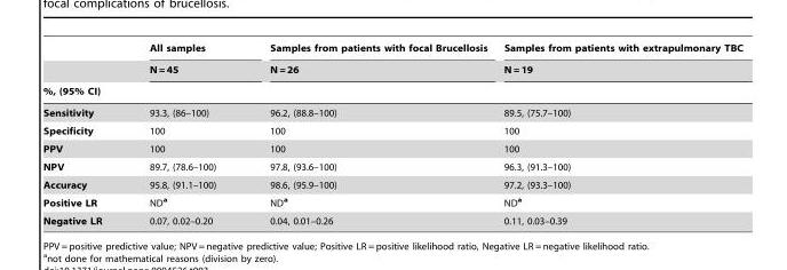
<table><thead><tr><td rowspan="2"></td><td rowspan="2">All samples N = 45</td><td rowspan="2">Samples from patients with focal Brucellosis N = 26</td><td rowspan="2">Samples from patients with extrapulmonary TBC N = 19</td></tr><tr></tr><tr><td colspan="4">%, (95% CI)</td></tr></thead><tbody><tr><td>Sensitivity</td><td>93.3, (86–100)</td><td>96.2, (88.8–100)</td><td>89.5, (75.7–100)</td></tr><tr><td>Specificity</td><td>100</td><td>100</td><td>100</td></tr><tr><td>PPV</td><td>100</td><td>100</td><td>100</td></tr><tr><td>NPV</td><td>89.7, (78.6–100)</td><td>97.8, (93.6–100)</td><td>96.3, (91.3–100)</td></tr><tr><td>Accuracy</td><td>95.8, (91.1–100)</td><td>98.6, (95.9–100)</td><td>97.2, (93.3–100)</td></tr><tr><td>Positive LR</td><td>ND<sup>a</sup></td><td>ND<sup>a</sup></td><td>ND<sup>a</sup></td></tr><tr><td>Negative LR</td><td>0.07, 0.02–0.20</td><td>0.04, 0.01–0.26</td><td>0.11, 0.03–0.39</td></tr></tbody></table>